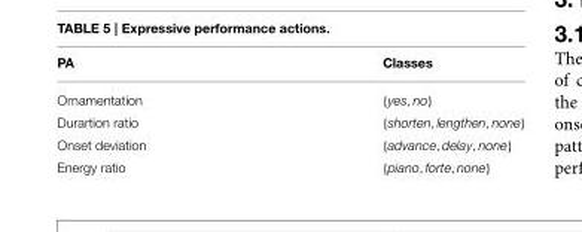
<table><thead><tr><td>PA</td><td>Classes</td></tr></thead><tbody><tr><td>Ornamentation</td><td>{yes, no}</td></tr><tr><td>Durartion ratio</td><td>{shorten, lengthen, none}</td></tr><tr><td>Onset deviation</td><td>{advance, delay, none}</td></tr><tr><td>Energy ratio</td><td>{piano, forte, none}</td></tr></tbody></table>